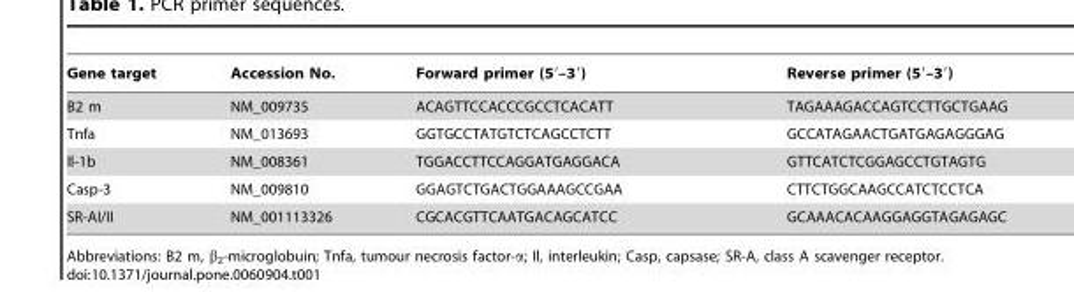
<table><thead><tr><td>Gene target</td><td>Accession No.</td><td>Forward primer (5′–3′)</td><td>Reverse primer (5′–3′)</td></tr></thead><tbody><tr><td>B2 m</td><td>NM_009735</td><td>ACAGTTCCACCCGCCTCACATT</td><td>TAGAAAGACCAGTCCTTGCTGAAG</td></tr><tr><td>Tnfa</td><td>NM_013693</td><td>GGTGCCTATGTCTCAGCCTCTT</td><td>GCCATAGAACTGATGAGAGGGAG</td></tr><tr><td>Il-1b</td><td>NM_008361</td><td>TGGACCTTCCAGGATGAGGACA</td><td>GTTCATCTCGGAGCCTGTAGTG</td></tr><tr><td>Casp-3</td><td>NM_009810</td><td>GGAGTCTGACTGGAAAGCCGAA</td><td>CTTCTGGCAAGCCATCTCCTCA</td></tr><tr><td>SR-AI/II</td><td>NM_001113326</td><td>CGCACGTTCAATGACAGCATCC</td><td>GCAAACACAAGGAGGTAGAGAGC</td></tr></tbody></table>